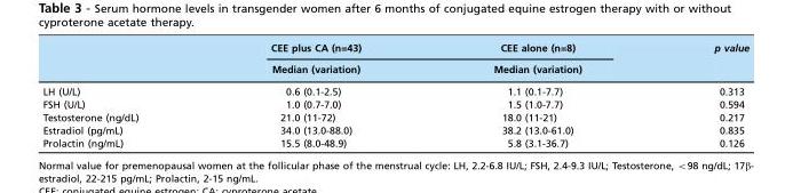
<table><thead><tr><td rowspan="2"></td><td rowspan="2">CEE plus CA (n=43) Median (variation)</td><td rowspan="2">CEE alone (n=8) Median (variation)</td><td rowspan="2">p value</td></tr><tr></tr></thead><tbody><tr><td>LH (U/L)</td><td>0.6 (0.1-2.5)</td><td>1.1 (0.1-7.7)</td><td>0.313</td></tr><tr><td>FSH (U/L)</td><td>1.0 (0.7-7.0)</td><td>1.5 (1.0-7.7)</td><td>0.594</td></tr><tr><td>Testosterone (ng/dL)</td><td>21.0 (11-72)</td><td>18.0 (11-21)</td><td>0.217</td></tr><tr><td>Estradiol (pg/mL)</td><td>34.0 (13.0-88.0)</td><td>38.2 (13.0-61.0)</td><td>0.835</td></tr><tr><td>Prolactin (ng/mL)</td><td>15.5 (8.0-48.9)</td><td>5.8 (3.1-36.7)</td><td>0.126</td></tr></tbody></table>